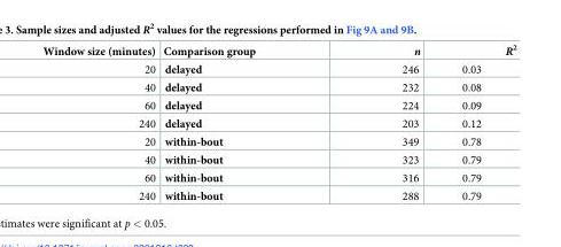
<table><thead><tr><td>Window size (minutes)</td><td>Comparison group</td><td>n</td><td>R<sup>2</sup></td></tr></thead><tbody><tr><td>20</td><td>delayed</td><td>246</td><td>0.03</td></tr><tr><td>40</td><td>delayed</td><td>232</td><td>0.08</td></tr><tr><td>60</td><td>delayed</td><td>224</td><td>0.09</td></tr><tr><td>240</td><td>delayed</td><td>203</td><td>0.12</td></tr><tr><td>20</td><td>within-bout</td><td>349</td><td>0.78</td></tr><tr><td>40</td><td>within-bout</td><td>323</td><td>0.79</td></tr><tr><td>60</td><td>within-bout</td><td>316</td><td>0.79</td></tr><tr><td>240</td><td>within-bout</td><td>288</td><td>0.79</td></tr></tbody></table>